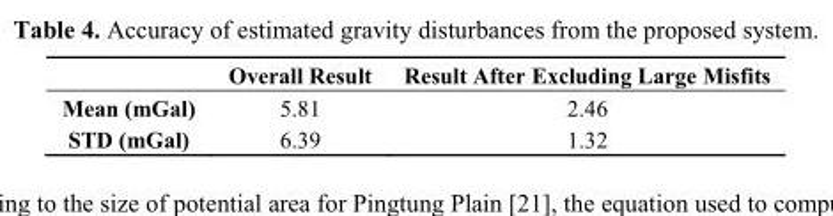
<table><thead><tr><td></td><td>Overall Result</td><td>Result After Excluding Large Misfits</td></tr></thead><tbody><tr><td>Mean (mGal)</td><td>5.81</td><td>2.46</td></tr><tr><td>STD (mGal)</td><td>6.39</td><td>1.32</td></tr></tbody></table>